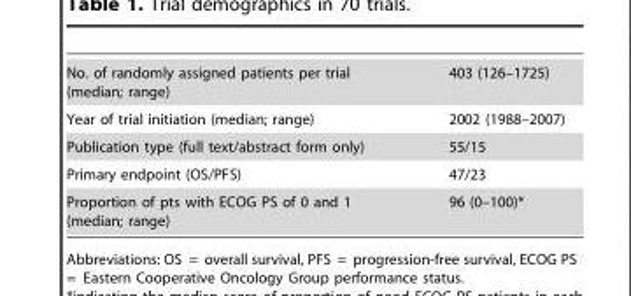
<table><tbody><tr><td>No. of randomly assigned patients per trial (median; range)</td><td>403 (126–1725)</td></tr><tr><td>Year of trial initiation (median; range)</td><td>2002 (1988–2007)</td></tr><tr><td>Publication type (full text/abstract form only)</td><td>55/15</td></tr><tr><td>Primary endpoint (OS/PFS)</td><td>47/23</td></tr><tr><td>Proportion of pts with ECOG PS of 0 and 1 (median; range)</td><td>96 (0–100)*</td></tr></tbody></table>